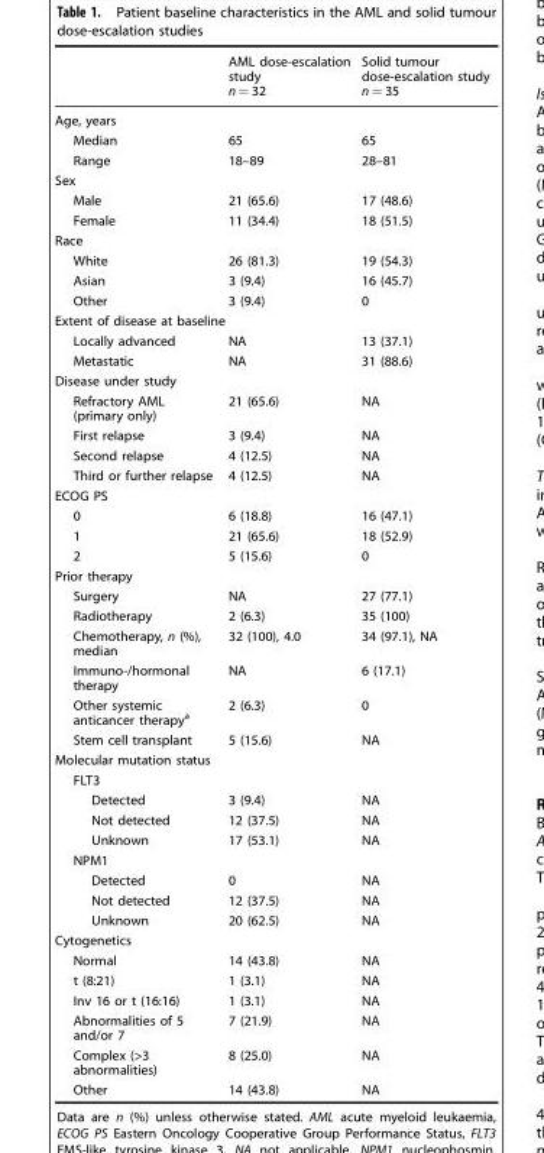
<table><thead><tr><td></td><td>AML dose-escalation study n = 32</td><td>Solid tumour dose-escalation study n = 35</td></tr></thead><tbody><tr><td colspan="3">Age, years</td></tr><tr><td>Median</td><td>65</td><td>65</td></tr><tr><td>Range</td><td>18–89</td><td>28–81</td></tr><tr><td colspan="3">Sex</td></tr><tr><td>Male</td><td>21 (65.6)</td><td>17 (48.6)</td></tr><tr><td>Female</td><td>11 (34.4)</td><td>18 (51.5)</td></tr><tr><td colspan="3">Race</td></tr><tr><td>White</td><td>26 (81.3)</td><td>19 (54.3)</td></tr><tr><td>Asian</td><td>3 (9.4)</td><td>16 (45.7)</td></tr><tr><td>Other</td><td>3 (9.4)</td><td>0</td></tr><tr><td colspan="3">Extent of disease at baseline</td></tr><tr><td>Locally advanced</td><td>NA</td><td>13 (37.1)</td></tr><tr><td>Metastatic</td><td>NA</td><td>31 (88.6)</td></tr><tr><td colspan="3">Disease under study</td></tr><tr><td>Refractory AML (primary only)</td><td>21 (65.6)</td><td>NA</td></tr><tr><td>First relapse</td><td>3 (9.4)</td><td>NA</td></tr><tr><td>Second relapse</td><td>4 (12.5)</td><td>NA</td></tr><tr><td>Third or further relapse</td><td>4 (12.5)</td><td>NA</td></tr><tr><td colspan="3">ECOG PS</td></tr><tr><td>0</td><td>6 (18.8)</td><td>16 (47.1)</td></tr><tr><td>1</td><td>21 (65.6)</td><td>18 (52.9)</td></tr><tr><td>2</td><td>5 (15.6)</td><td>0</td></tr><tr><td colspan="3">Prior therapy</td></tr><tr><td>Surgery</td><td>NA</td><td>27 (77.1)</td></tr><tr><td>Radiotherapy</td><td>2 (6.3)</td><td>35 (100)</td></tr><tr><td>Chemotherapy, n (%), median</td><td>32 (100), 4.0</td><td>34 (97.1), NA</td></tr><tr><td>Immuno-/hormonal therapy</td><td>NA</td><td>6 (17.1)</td></tr><tr><td>Other systemic anticancer therapy<sup>a</sup></td><td>2 (6.3)</td><td>0</td></tr><tr><td>Stem cell transplant</td><td>5 (15.6)</td><td>NA</td></tr><tr><td colspan="3">Molecular mutation status</td></tr><tr><td colspan="3">FLT3</td></tr><tr><td>Detected</td><td>3 (9.4)</td><td>NA</td></tr><tr><td>Not detected</td><td>12 (37.5)</td><td>NA</td></tr><tr><td>Unknown</td><td>17 (53.1)</td><td>NA</td></tr><tr><td colspan="3">NPM1</td></tr><tr><td>Detected</td><td>0</td><td>NA</td></tr><tr><td>Not detected</td><td>12 (37.5)</td><td>NA</td></tr><tr><td>Unknown</td><td>20 (62.5)</td><td>NA</td></tr><tr><td colspan="3">Cytogenetics</td></tr><tr><td>Normal</td><td>14 (43.8)</td><td>NA</td></tr><tr><td>t (8:21)</td><td>1 (3.1)</td><td>NA</td></tr><tr><td>Inv 16 or t (16:16)</td><td>1 (3.1)</td><td>NA</td></tr><tr><td>Abnormalities of 5 and/or 7</td><td>7 (21.9)</td><td>NA</td></tr><tr><td>Complex (&gt;3 abnormalities)</td><td>8 (25.0)</td><td>NA</td></tr><tr><td>Other</td><td>14 (43.8)</td><td>NA</td></tr></tbody></table>